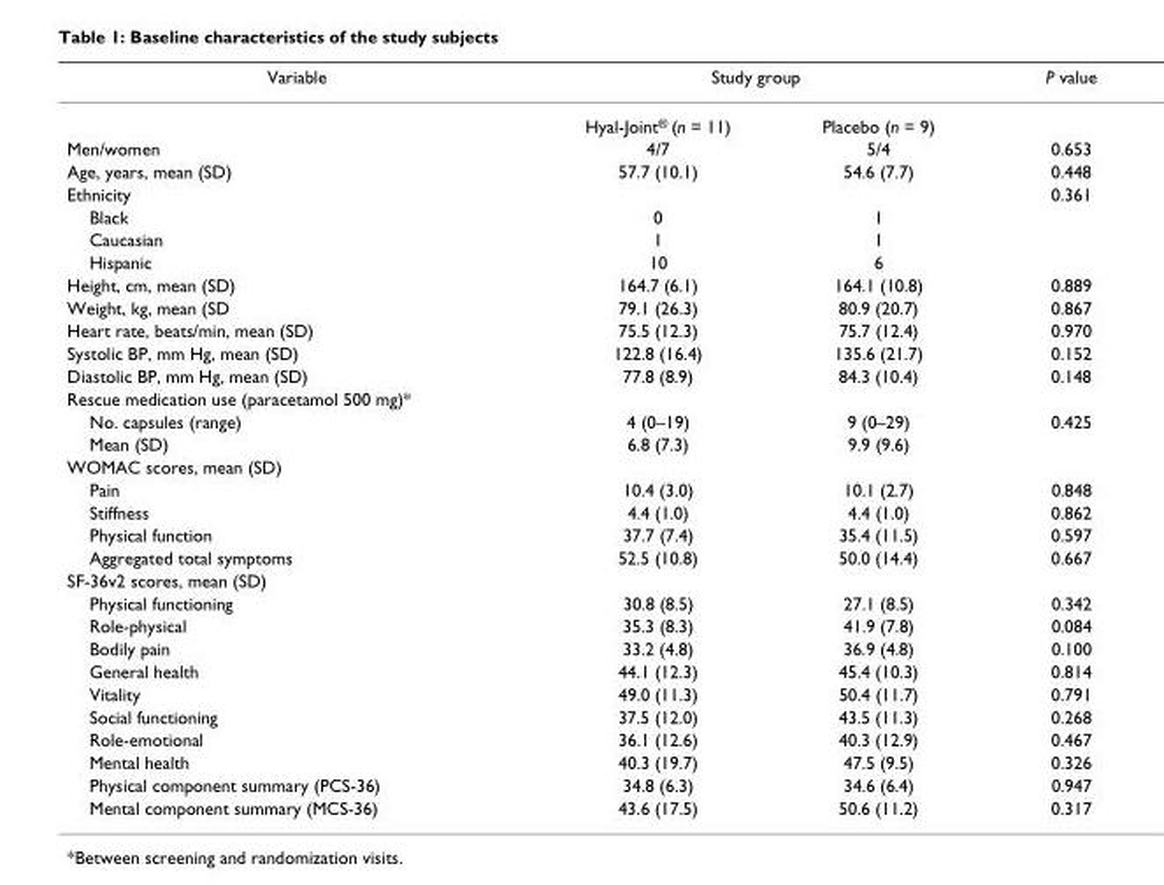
<table><thead><tr><td rowspan="2">Variable</td><td colspan="2">Study group</td><td rowspan="2">P value</td></tr><tr><td>Hyal-Joint<sup>®</sup> (n = 11)</td><td>Placebo (n = 9)</td></tr></thead><tbody><tr><td>Men/women</td><td>4/7</td><td>5/4</td><td>0.653</td></tr><tr><td>Age, years, mean (SD)</td><td>57.7 (10.1)</td><td>54.6 (7.7)</td><td>0.448</td></tr><tr><td>Ethnicity</td><td></td><td></td><td>0.361</td></tr><tr><td>Black</td><td>0</td><td>1</td><td></td></tr><tr><td>Caucasian</td><td>1</td><td>1</td><td></td></tr><tr><td>Hispanic</td><td>10</td><td>6</td><td></td></tr><tr><td>Height, cm, mean (SD)</td><td>164.7 (6.1)</td><td>164.1 (10.8)</td><td>0.889</td></tr><tr><td>Weight, kg, mean (SD</td><td>79.1 (26.3)</td><td>80.9 (20.7)</td><td>0.867</td></tr><tr><td>Heart rate, beats/min, mean (SD)</td><td>75.5 (12.3)</td><td>75.7 (12.4)</td><td>0.970</td></tr><tr><td>Systolic BP, mm Hg, mean (SD)</td><td>122.8 (16.4)</td><td>135.6 (21.7)</td><td>0.152</td></tr><tr><td>Diastolic BP, mm Hg, mean (SD)</td><td>77.8 (8.9)</td><td>84.3 (10.4)</td><td>0.148</td></tr><tr><td colspan="4">Rescue medication use (paracetamol 500 mg)*</td></tr><tr><td>No. capsules (range)</td><td>4 (0–19)</td><td>9 (0–29)</td><td>0.425</td></tr><tr><td>Mean (SD)</td><td>6.8 (7.3)</td><td>9.9 (9.6)</td><td></td></tr><tr><td colspan="4">WOMAC scores, mean (SD)</td></tr><tr><td>Pain</td><td>10.4 (3.0)</td><td>10.1 (2.7)</td><td>0.848</td></tr><tr><td>Stiffness</td><td>4.4 (1.0)</td><td>4.4 (1.0)</td><td>0.862</td></tr><tr><td>Physical function</td><td>37.7 (7.4)</td><td>35.4 (11.5)</td><td>0.597</td></tr><tr><td>Aggregated total symptoms</td><td>52.5 (10.8)</td><td>50.0 (14.4)</td><td>0.667</td></tr><tr><td colspan="4">SF-36v2 scores, mean (SD)</td></tr><tr><td>Physical functioning</td><td>30.8 (8.5)</td><td>27.1 (8.5)</td><td>0.342</td></tr><tr><td>Role-physical</td><td>35.3 (8.3)</td><td>41.9 (7.8)</td><td>0.084</td></tr><tr><td>Bodily pain</td><td>33.2 (4.8)</td><td>36.9 (4.8)</td><td>0.100</td></tr><tr><td>General health</td><td>44.1 (12.3)</td><td>45.4 (10.3)</td><td>0.814</td></tr><tr><td>Vitality</td><td>49.0 (11.3)</td><td>50.4 (11.7)</td><td>0.791</td></tr><tr><td>Social functioning</td><td>37.5 (12.0)</td><td>43.5 (11.3)</td><td>0.268</td></tr><tr><td>Role-emotional</td><td>36.1 (12.6)</td><td>40.3 (12.9)</td><td>0.467</td></tr><tr><td>Mental health</td><td>40.3 (19.7)</td><td>47.5 (9.5)</td><td>0.326</td></tr><tr><td>Physical component summary (PCS-36)</td><td>34.8 (6.3)</td><td>34.6 (6.4)</td><td>0.947</td></tr><tr><td>Mental component summary (MCS-36)</td><td>43.6 (17.5)</td><td>50.6 (11.2)</td><td>0.317</td></tr></tbody></table>